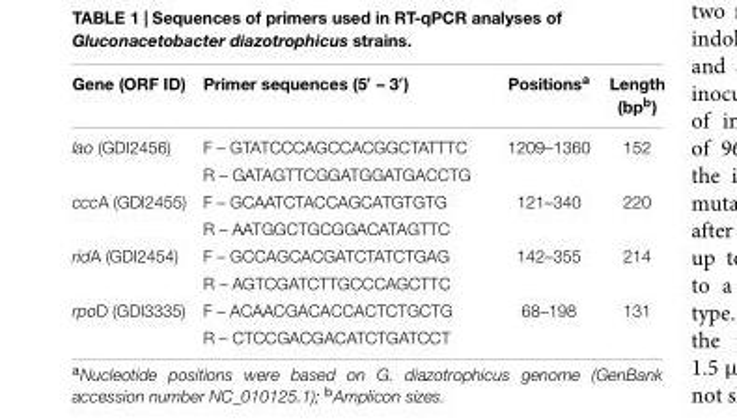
<table><thead><tr><td>Gene (ORF ID)</td><td>Primer sequences (5′ – 3′)</td><td>Positions<sup>a</sup></td><td>Length (bp<sup>b</sup>)</td></tr></thead><tbody><tr><td rowspan="2">lao (GDI2456)</td><td>F – GTATCCCAGCCACGGCTATTTC</td><td>1209–1360</td><td>152</td></tr><tr><td>R – GATAGTTCGGATGGATGACCTG</td><td></td><td></td></tr><tr><td rowspan="2">cccA (GDI2455)</td><td>F – GCAATCTACCAGCATGTGTG</td><td>121–340</td><td>220</td></tr><tr><td>R – AATGGCTGCGGACATAGTTC</td><td></td><td></td></tr><tr><td rowspan="2">ridA (GDI2454)</td><td>F – GCCAGCACGATCTATCTGAG</td><td>142–355</td><td>214</td></tr><tr><td>R – AGTCGATCTTGCCCAGCTTC</td><td></td><td></td></tr><tr><td rowspan="2">rpoD (GDI3335)</td><td>F – ACAACGACACCACTCTGCTG</td><td>68–198</td><td>131</td></tr><tr><td>R – CTCCGACGACATCTGATCCT</td><td></td><td></td></tr></tbody></table>